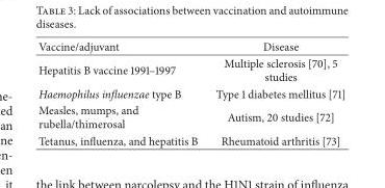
<table><thead><tr><td>Vaccine/adjuvant</td><td>Disease</td></tr></thead><tbody><tr><td>Hepatitis B vaccine 1991–1997</td><td>Multiple sclerosis [70], 5 studies</td></tr><tr><td>Haemophilus influenzae type B</td><td>Type 1 diabetes mellitus [71]</td></tr><tr><td>Measles, mumps, and rubella/thimerosal</td><td>Autism, 20 studies [72]</td></tr><tr><td>Tetanus, influenza, and hepatitis B</td><td>Rheumatoid arthritis [73]</td></tr></tbody></table>